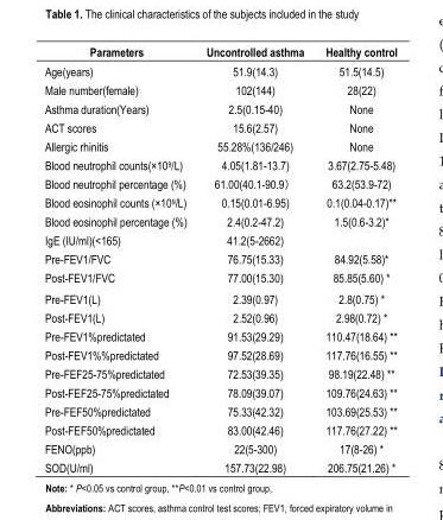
<table><thead><tr><td>Parameters</td><td>Uncontrolled asthma</td><td>Healthy control</td></tr></thead><tbody><tr><td>Age(years)</td><td>51.9(14.3)</td><td>51.5(14.5)</td></tr><tr><td>Male number(female)</td><td>102(144)</td><td>28(22)</td></tr><tr><td>Asthma duration(Years)</td><td>2.5(0.15-40)</td><td>None</td></tr><tr><td>ACT scores</td><td>15.6(2.57)</td><td>None</td></tr><tr><td>Allergic rhinitis</td><td>55.28%(136/246)</td><td>None</td></tr><tr><td>Blood neutrophil counts(×10<sup>9</sup>/L)</td><td>4.05(1.81-13.7)</td><td>3.67(2.75-5.48)</td></tr><tr><td>Blood neutrophil percentage (%)</td><td>61.00(40.1-90.9）</td><td>63.2(53.9-72)</td></tr><tr><td>Blood eosinophil counts (×10<sup>9</sup>/L)</td><td>0.15(0.01-6.95)</td><td>0.1(0.04-0.17)**</td></tr><tr><td>Blood eosinophil percentage (%)</td><td>2.4(0.2-47.2)</td><td>1.5(0.6-3.2)*</td></tr><tr><td>IgE (IU/ml)(&lt;165)</td><td>41.2(5-2662)</td><td></td></tr><tr><td>Pre-FEV<sub>1</sub>/FVC</td><td>76.75(15.33)</td><td>84.92(5.58)*</td></tr><tr><td>Post-FEV<sub>1</sub>/FVC</td><td>77.00(15.30)</td><td>85.85(5.60) *</td></tr><tr><td>Pre-FEV<sub>1</sub>(L)</td><td>2.39(0.97)</td><td>2.8(0.75) *</td></tr><tr><td>Post-FEV<sub>1</sub>(L)</td><td>2.52(0.96)</td><td>2.98(0.72) *</td></tr><tr><td>Pre-FEV<sub>1</sub>%predictated</td><td>91.53(29.29)</td><td>110.47(18.64) **</td></tr><tr><td>Post-FEV<sub>1</sub>%%predictated</td><td>97.52(28.69)</td><td>117.76(16.55) **</td></tr><tr><td>Pre-FEF25-75%predictated</td><td>72.53(39.35)</td><td>98.19(22.48) **</td></tr><tr><td>Post-FEF25-75%predictated</td><td>78.09(39.07)</td><td>109.76(24.63) **</td></tr><tr><td>Pre-FEF50%predictated</td><td>75.33(42.32)</td><td>103.69(25.53) **</td></tr><tr><td>Post-FEF50%predictated</td><td>83.00(42.46)</td><td>117.76(27.22) **</td></tr><tr><td>FENO(ppb)</td><td>22(5-300)</td><td>17(8-26) *</td></tr><tr><td>SOD(U/ml)</td><td>157.73(22.98)</td><td>206.75(21.26) *</td></tr></tbody></table>